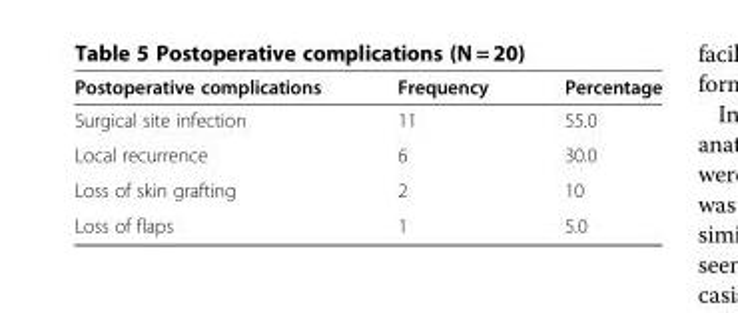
<table><thead><tr><td>Postoperative complications</td><td>Frequency</td><td>Percentage</td></tr></thead><tbody><tr><td>Surgical site infection</td><td>11</td><td>55.0</td></tr><tr><td>Local recurrence</td><td>6</td><td>30.0</td></tr><tr><td>Loss of skin grafting</td><td>2</td><td>10</td></tr><tr><td>Loss of flaps</td><td>1</td><td>5.0</td></tr></tbody></table>